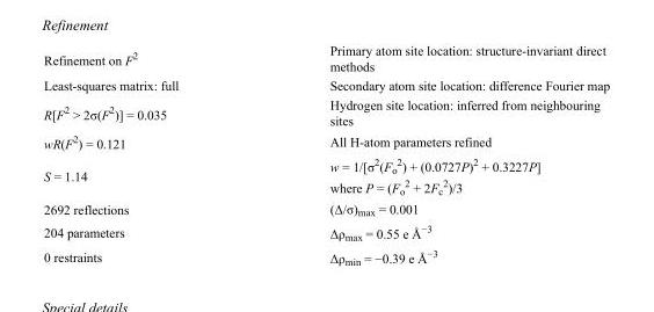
<table><tbody><tr><td>Refinement on F<sup>2</sup></td><td>Primary atom site location: structure-invariant direct methods</td></tr><tr><td>Least-squares matrix: full</td><td>Secondary atom site location: difference Fourier map</td></tr><tr><td>R[F<sup>2</sup> &gt; 2σ(F<sup>2</sup>)] = 0.035</td><td>Hydrogen site location: inferred from neighbouring sites</td></tr><tr><td>wR(F<sup>2</sup>) = 0.121</td><td>All H-atom parameters refined</td></tr><tr><td>S = 1.14</td><td>w = 1/[σ<sup>2</sup>(F<sub>o</sub> <sup>2</sup>) + (0.0727P)<sup>2</sup> + 0.3227P] where P = (F<sub>o</sub> <sup>2</sup> + 2F<sub>c</sub> <sup>2</sup>)/3</td></tr><tr><td>2692 reflections</td><td>(Δ/σ)<sub>max</sub> = 0.001</td></tr><tr><td>204 parameters</td><td>Δρ<sub>max</sub> = 0.55 e Å<sup>−3</sup></td></tr><tr><td>0 restraints</td><td>Δρ<sub>min</sub> = −0.39 e Å<sup>−3</sup></td></tr></tbody></table>